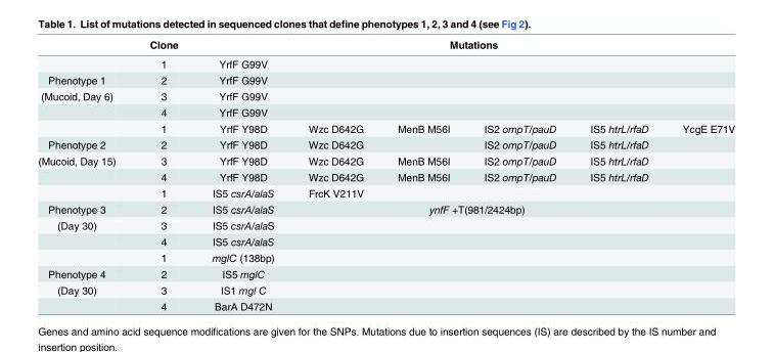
<table><thead><tr><td rowspan="2"></td><td rowspan="2">Clone 1</td><td colspan="6">Mutations</td></tr><tr><td>YrfF G99V</td><td></td><td></td><td></td><td></td><td></td></tr></thead><tbody><tr><td>Phenotype 1</td><td>2</td><td>YrfF G99V</td><td></td><td></td><td></td><td></td><td></td></tr><tr><td rowspan="3">(Mucoid, Day 6)</td><td>3</td><td>YrfF G99V</td><td></td><td></td><td></td><td></td><td></td></tr><tr><td>4</td><td>YrfF G99V</td><td></td><td></td><td></td><td></td><td></td></tr><tr><td>1</td><td>YrfF Y98D</td><td>Wzc D642G</td><td>MenB M56I</td><td>IS2 ompT/pauD</td><td>IS5 htrL/rfaD</td><td>YcgE E71V</td></tr><tr><td>Phenotype 2</td><td>2</td><td>YrfF Y98D</td><td>Wzc D642G</td><td></td><td>IS2 ompT/pauD</td><td>IS5 htrL/rfaD</td><td></td></tr><tr><td rowspan="3">(Mucoid, Day 15)</td><td>3</td><td>YrfF Y98D</td><td>Wzc D642G</td><td>MenB M56I</td><td>IS2 ompT/pauD</td><td>IS5 htrL/rfaD</td><td></td></tr><tr><td>4</td><td>YrfF Y98D</td><td>Wzc D642G</td><td>MenB M56I</td><td>IS2 ompT/pauD</td><td>IS5 htrL/rfaD</td><td></td></tr><tr><td>1</td><td>IS5 csrA/alaS</td><td>FrcK V211V</td><td></td><td></td><td></td><td></td></tr><tr><td>Phenotype 3</td><td>2</td><td>IS5 csrA/alaS</td><td></td><td colspan="2">ynfF +T(981/2424bp)</td><td></td><td></td></tr><tr><td rowspan="3">(Day 30)</td><td>3</td><td>IS5 csrA/alaS</td><td></td><td></td><td></td><td></td><td></td></tr><tr><td>4</td><td>IS5 csrA/alaS</td><td></td><td></td><td></td><td></td><td></td></tr><tr><td>1</td><td>mglC (138bp)</td><td></td><td></td><td></td><td></td><td></td></tr><tr><td>Phenotype 4</td><td>2</td><td>IS5 mglC</td><td></td><td></td><td></td><td></td><td></td></tr><tr><td rowspan="2">(Day 30)</td><td>3</td><td>IS1 mgl C</td><td></td><td></td><td></td><td></td><td></td></tr><tr><td>4</td><td>BarA D472N</td><td></td><td></td><td></td><td></td><td></td></tr></tbody></table>